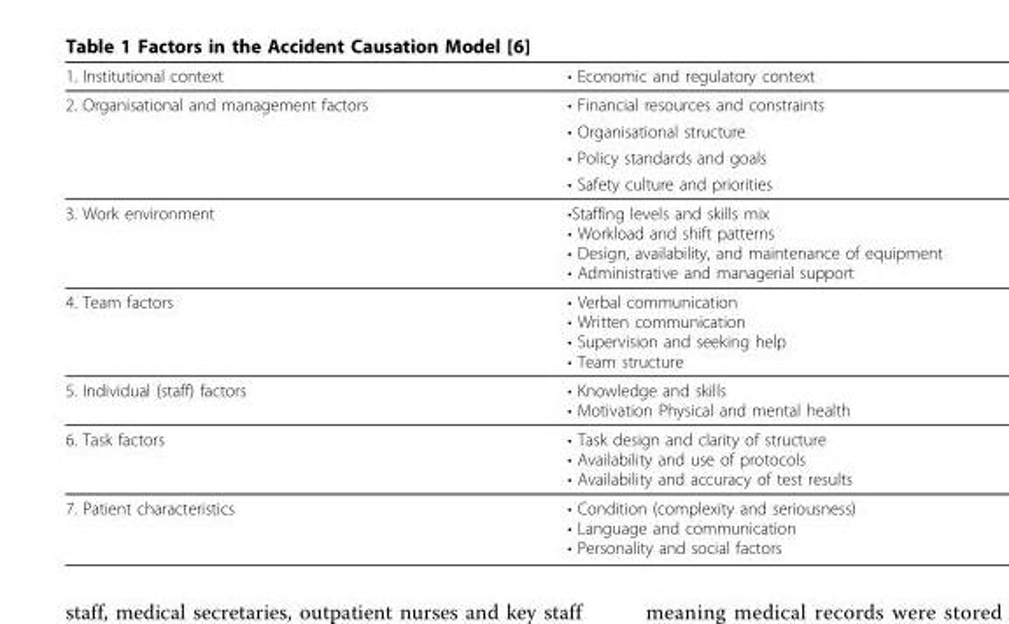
<table><thead><tr><td>1. Institutional context</td><td>• Economic and regulatory context</td></tr></thead><tbody><tr><td rowspan="4">2. Organisational and management factors</td><td>• Financial resources and constraints</td></tr><tr><td>• Organisational structure</td></tr><tr><td>• Policy standards and goals</td></tr><tr><td>• Safety culture and priorities</td></tr><tr><td>3. Work environment</td><td>•Staffing levels and skills mix • Workload and shift patterns • Design, availability, and maintenance of equipment • Administrative and managerial support</td></tr><tr><td>4. Team factors</td><td>• Verbal communication • Written communication • Supervision and seeking help • Team structure</td></tr><tr><td>5. Individual (staff) factors</td><td>• Knowledge and skills • Motivation Physical and mental health</td></tr><tr><td>6. Task factors</td><td>• Task design and clarity of structure • Availability and use of protocols • Availability and accuracy of test results</td></tr><tr><td>7. Patient characteristics</td><td>• Condition (complexity and seriousness) • Language and communication • Personality and social factors</td></tr></tbody></table>